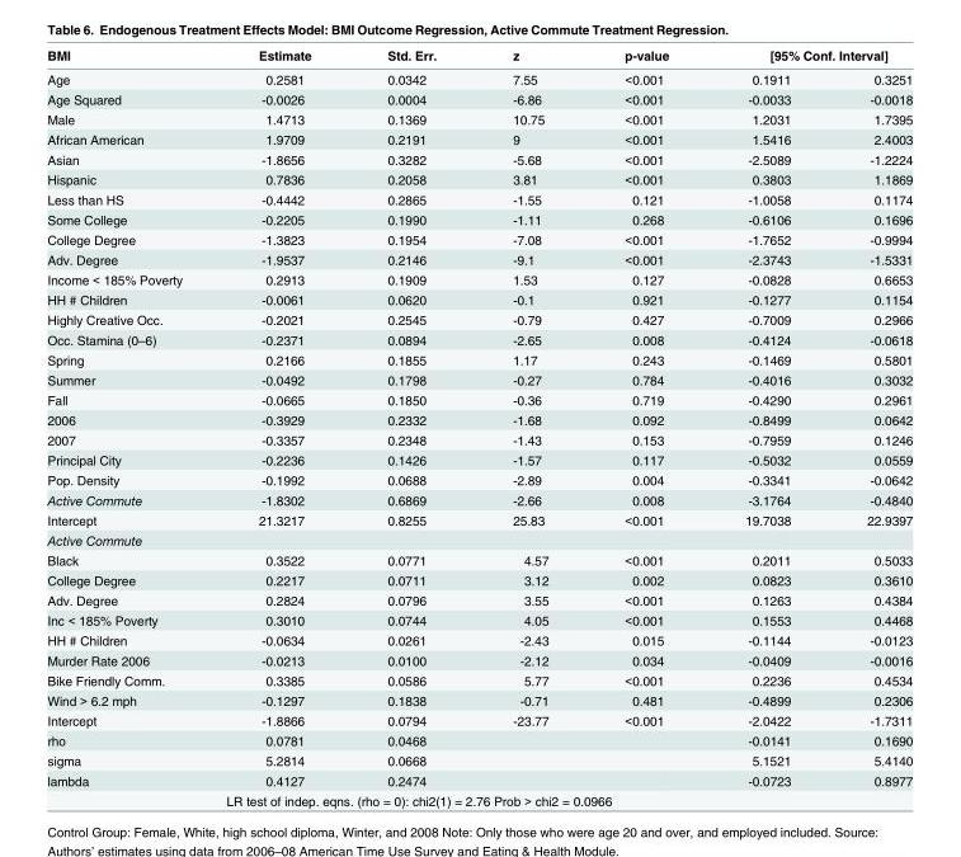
<table><thead><tr><td rowspan="2">BMI Age</td><td rowspan="2">Estimate 0.2581</td><td rowspan="2">Std. Err. 0.0342</td><td rowspan="2">z 7.55</td><td rowspan="2">p-value &lt;0.001</td><td colspan="2">[95% Conf. Interval]</td></tr><tr><td>0.1911</td><td>0.3251</td></tr></thead><tbody><tr><td>Age Squared</td><td>-0.0026</td><td>0.0004</td><td>-6.86</td><td>&lt;0.001</td><td>-0.0033</td><td>-0.0018</td></tr><tr><td>Male</td><td>1.4713</td><td>0.1369</td><td>10.75</td><td>&lt;0.001</td><td>1.2031</td><td>1.7395</td></tr><tr><td>African American</td><td>1.9709</td><td>0.2191</td><td>9</td><td>&lt;0.001</td><td>1.5416</td><td>2.4003</td></tr><tr><td>Asian</td><td>-1.8656</td><td>0.3282</td><td>-5.68</td><td>&lt;0.001</td><td>-2.5089</td><td>-1.2224</td></tr><tr><td>Hispanic</td><td>0.7836</td><td>0.2058</td><td>3.81</td><td>&lt;0.001</td><td>0.3803</td><td>1.1869</td></tr><tr><td>Less than HS</td><td>-0.4442</td><td>0.2865</td><td>-1.55</td><td>0.121</td><td>-1.0058</td><td>0.1174</td></tr><tr><td>Some College</td><td>-0.2205</td><td>0.1990</td><td>-1.11</td><td>0.268</td><td>-0.6106</td><td>0.1696</td></tr><tr><td>College Degree</td><td>-1.3823</td><td>0.1954</td><td>-7.08</td><td>&lt;0.001</td><td>-1.7652</td><td>-0.9994</td></tr><tr><td>Adv. Degree</td><td>-1.9537</td><td>0.2146</td><td>-9.1</td><td>&lt;0.001</td><td>-2.3743</td><td>-1.5331</td></tr><tr><td>Income &lt; 185% Poverty</td><td>0.2913</td><td>0.1909</td><td>1.53</td><td>0.127</td><td>-0.0828</td><td>0.6653</td></tr><tr><td>HH # Children</td><td>-0.0061</td><td>0.0620</td><td>-0.1</td><td>0.921</td><td>-0.1277</td><td>0.1154</td></tr><tr><td>Highly Creative Occ.</td><td>-0.2021</td><td>0.2545</td><td>-0.79</td><td>0.427</td><td>-0.7009</td><td>0.2966</td></tr><tr><td>Occ. Stamina (0–6)</td><td>-0.2371</td><td>0.0894</td><td>-2.65</td><td>0.008</td><td>-0.4124</td><td>-0.0618</td></tr><tr><td>Spring</td><td>0.2166</td><td>0.1855</td><td>1.17</td><td>0.243</td><td>-0.1469</td><td>0.5801</td></tr><tr><td>Summer</td><td>-0.0492</td><td>0.1798</td><td>-0.27</td><td>0.784</td><td>-0.4016</td><td>0.3032</td></tr><tr><td>Fall</td><td>-0.0665</td><td>0.1850</td><td>-0.36</td><td>0.719</td><td>-0.4290</td><td>0.2961</td></tr><tr><td>2006</td><td>-0.3929</td><td>0.2332</td><td>-1.68</td><td>0.092</td><td>-0.8499</td><td>0.0642</td></tr><tr><td>2007</td><td>-0.3357</td><td>0.2348</td><td>-1.43</td><td>0.153</td><td>-0.7959</td><td>0.1246</td></tr><tr><td>Principal City</td><td>-0.2236</td><td>0.1426</td><td>-1.57</td><td>0.117</td><td>-0.5032</td><td>0.0559</td></tr><tr><td>Pop. Density</td><td>-0.1992</td><td>0.0688</td><td>-2.89</td><td>0.004</td><td>-0.3341</td><td>-0.0642</td></tr><tr><td>Active Commute</td><td>-1.8302</td><td>0.6869</td><td>-2.66</td><td>0.008</td><td>-3.1764</td><td>-0.4840</td></tr><tr><td>Intercept</td><td>21.3217</td><td>0.8255</td><td>25.83</td><td>&lt;0.001</td><td>19.7038</td><td>22.9397</td></tr><tr><td colspan="7">Active Commute</td></tr><tr><td>Black</td><td>0.3522</td><td>0.0771</td><td>4.57</td><td>&lt;0.001</td><td>0.2011</td><td>0.5033</td></tr><tr><td>College Degree</td><td>0.2217</td><td>0.0711</td><td>3.12</td><td>0.002</td><td>0.0823</td><td>0.3610</td></tr><tr><td>Adv. Degree</td><td>0.2824</td><td>0.0796</td><td>3.55</td><td>&lt;0.001</td><td>0.1263</td><td>0.4384</td></tr><tr><td>Inc &lt; 185% Poverty</td><td>0.3010</td><td>0.0744</td><td>4.05</td><td>&lt;0.001</td><td>0.1553</td><td>0.4468</td></tr><tr><td>HH # Children</td><td>-0.0634</td><td>0.0261</td><td>-2.43</td><td>0.015</td><td>-0.1144</td><td>-0.0123</td></tr><tr><td>Murder Rate 2006</td><td>-0.0213</td><td>0.0100</td><td>-2.12</td><td>0.034</td><td>-0.0409</td><td>-0.0016</td></tr><tr><td>Bike Friendly Comm.</td><td>0.3385</td><td>0.0586</td><td>5.77</td><td>&lt;0.001</td><td>0.2236</td><td>0.4534</td></tr><tr><td>Wind &gt; 6.2 mph</td><td>-0.1297</td><td>0.1838</td><td>-0.71</td><td>0.481</td><td>-0.4899</td><td>0.2306</td></tr><tr><td>Intercept</td><td>-1.8866</td><td>0.0794</td><td>-23.77</td><td>&lt;0.001</td><td>-2.0422</td><td>-1.7311</td></tr><tr><td>rho</td><td>0.0781</td><td>0.0468</td><td></td><td></td><td>-0.0141</td><td>0.1690</td></tr><tr><td>sigma</td><td>5.2814</td><td>0.0668</td><td></td><td></td><td>5.1521</td><td>5.4140</td></tr><tr><td>lambda</td><td>0.4127</td><td>0.2474</td><td></td><td></td><td>-0.0723</td><td>0.8977</td></tr><tr><td colspan="6">LR test of indep. eqns. (rho = 0): chi2(1) = 2.76 Prob &gt; chi2 = 0.0966</td><td></td></tr></tbody></table>